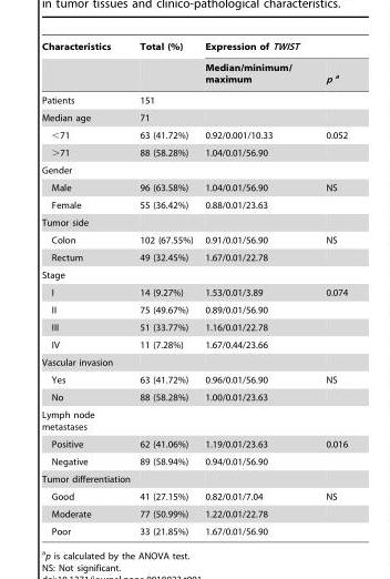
<table><thead><tr><td rowspan="2">Characteristics</td><td rowspan="2">Total (%)</td><td colspan="2">Expression of TWIST</td></tr><tr><td>Median/minimum/ maximum</td><td>p a</td></tr></thead><tbody><tr><td>Patients</td><td>151</td><td></td><td></td></tr><tr><td>Median age</td><td>71</td><td></td><td></td></tr><tr><td>&lt;71</td><td>63 (41.72%)</td><td>0.92/0.001/10.33</td><td>0.052</td></tr><tr><td>&gt;71</td><td>88 (58.28%)</td><td>1.04/0.01/56.90</td><td></td></tr><tr><td colspan="4">Gender</td></tr><tr><td>Male</td><td>96 (63.58%)</td><td>1.04/0.01/56.90</td><td>NS</td></tr><tr><td>Female</td><td>55 (36.42%)</td><td>0.88/0.01/23.63</td><td></td></tr><tr><td colspan="4">Tumor side</td></tr><tr><td>Colon</td><td>102 (67.55%)</td><td>0.91/0.01/56.90</td><td>NS</td></tr><tr><td>Rectum</td><td>49 (32.45%)</td><td>1.67/0.01/22.78</td><td></td></tr><tr><td colspan="4">Stage</td></tr><tr><td>I</td><td>14 (9.27%)</td><td>1.53/0.01/3.89</td><td>0.074</td></tr><tr><td>II</td><td>75 (49.67%)</td><td>0.89/0.01/56.90</td><td></td></tr><tr><td>III</td><td>51 (33.77%)</td><td>1.16/0.01/22.78</td><td></td></tr><tr><td>IV</td><td>11 (7.28%)</td><td>1.67/0.44/23.66</td><td></td></tr><tr><td colspan="4">Vascular invasion</td></tr><tr><td>Yes</td><td>63 (41.72%)</td><td>0.96/0.01/56.90</td><td>NS</td></tr><tr><td>No</td><td>88 (58.28%)</td><td>1.00/0.01/23.63</td><td></td></tr><tr><td colspan="4">Lymph node metastases</td></tr><tr><td>Positive</td><td>62 (41.06%)</td><td>1.19/0.01/23.63</td><td>0.016</td></tr><tr><td>Negative</td><td>89 (58.94%)</td><td>0.94/0.01/56.90</td><td></td></tr><tr><td colspan="4">Tumor differentiation</td></tr><tr><td>Good</td><td>41 (27.15%)</td><td>0.82/0.01/7.04</td><td>NS</td></tr><tr><td>Moderate</td><td>77 (50.99%)</td><td>1.22/0.01/22.78</td><td></td></tr><tr><td>Poor</td><td>33 (21.85%)</td><td>1.67/0.01/56.90</td><td></td></tr></tbody></table>